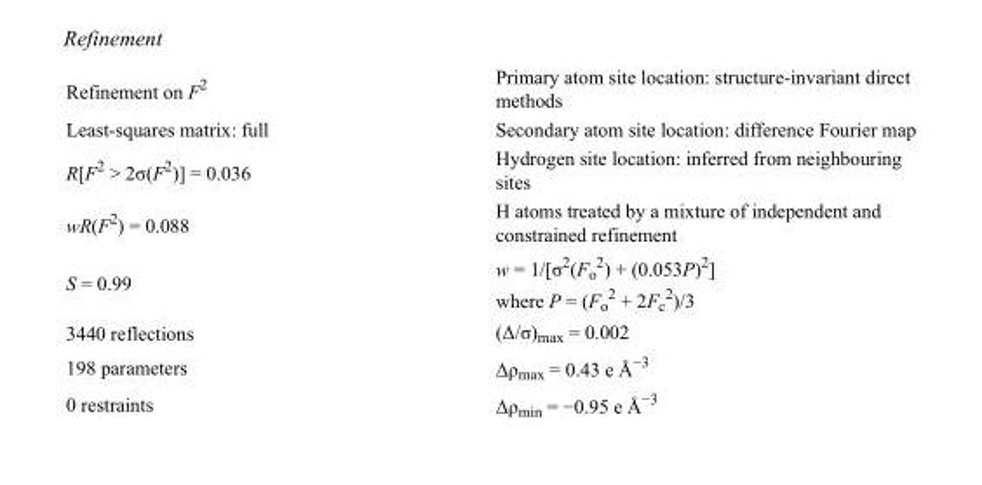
<table><tbody><tr><td>Refinement on F<sup>2</sup></td><td>Primary atom site location: structure-invariant direct methods</td></tr><tr><td>Least-squares matrix: full</td><td>Secondary atom site location: difference Fourier map</td></tr><tr><td>R[F<sup>2</sup> &gt; 2σ(F<sup>2</sup>)] = 0.036</td><td>Hydrogen site location: inferred from neighbouring sites</td></tr><tr><td>wR(F<sup>2</sup>) = 0.088</td><td>H atoms treated by a mixture of independent and constrained refinement</td></tr><tr><td>S = 0.99</td><td>w = 1/[σ<sup>2</sup>(F<sub>o</sub> <sup>2</sup>) + (0.053P)<sup>2</sup>] where P = (F<sub>o</sub> <sup>2</sup> + 2F<sub>c</sub> <sup>2</sup>)/3</td></tr><tr><td>3440 reflections</td><td>(Δ/σ)<sub>max</sub> = 0.002</td></tr><tr><td>198 parameters</td><td>Δρ<sub>max</sub> = 0.43 e Å<sup>−3</sup></td></tr><tr><td>0 restraints</td><td>Δρ<sub>min</sub> = −0.95 e Å<sup>−3</sup></td></tr></tbody></table>